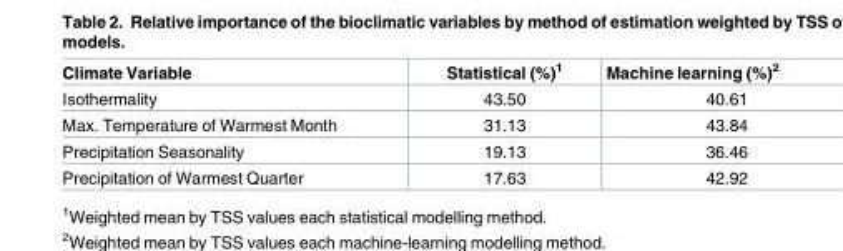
<table><thead><tr><td>Climate Variable</td><td>Statistical (%)<sup>1</sup></td><td>Machine learning (%)<sup>2</sup></td></tr></thead><tbody><tr><td>Isothermality</td><td>43.50</td><td>40.61</td></tr><tr><td>Max. Temperature of Warmest Month</td><td>31.13</td><td>43.84</td></tr><tr><td>Precipitation Seasonality</td><td>19.13</td><td>36.46</td></tr><tr><td>Precipitation of Warmest Quarter</td><td>17.63</td><td>42.92</td></tr></tbody></table>